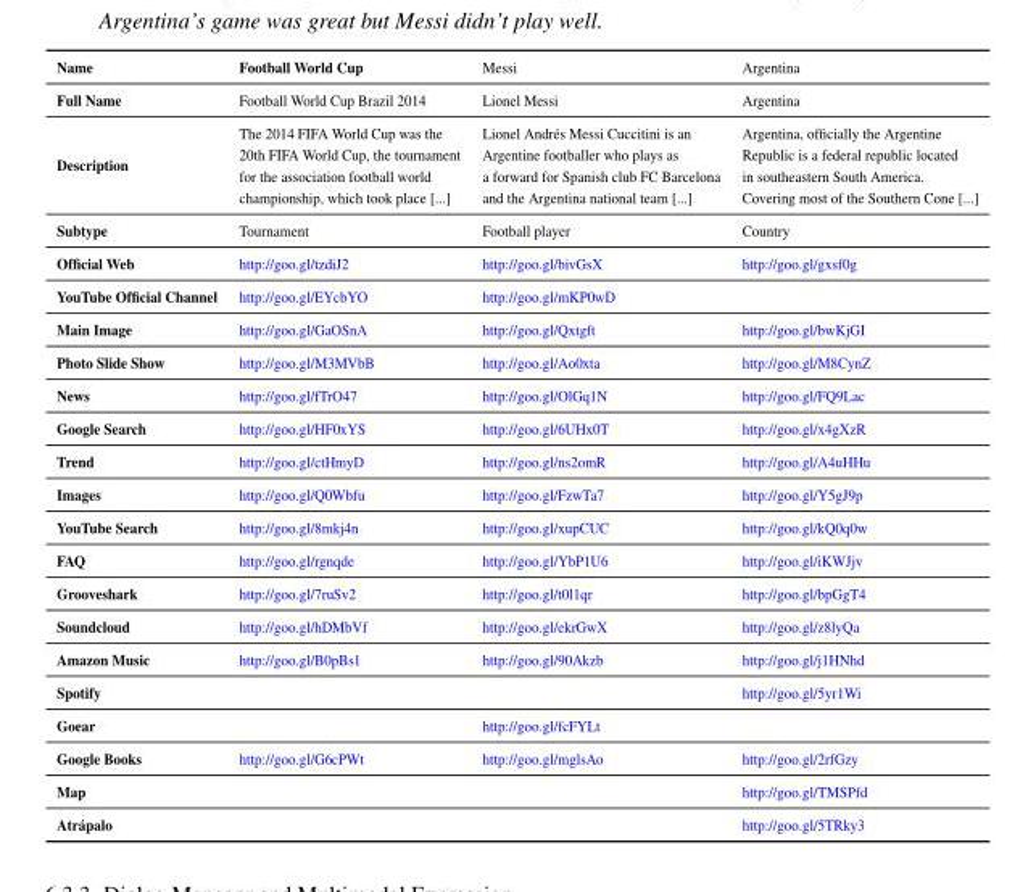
<table><tbody><tr><td>Name</td><td>Football World Cup</td><td>Messi</td><td>Argentina</td></tr><tr><td>Full Name</td><td>Football World Cup Brazil 2014</td><td>Lionel Messi</td><td>Argentina</td></tr><tr><td>Description</td><td>The 2014 FIFA World Cup was the 20th FIFA World Cup, the tournament for the association football world championship, which took place [...]</td><td>Lionel Andrés Messi Cuccitini is an Argentine footballer who plays as a forward for Spanish club FC Barcelona and the Argentina national team [...]</td><td>Argentina, officially the Argentine Republic is a federal republic located in southeastern South America. Covering most of the Southern Cone [...]</td></tr><tr><td>Subtype</td><td>Tournament</td><td>Football player</td><td>Country</td></tr><tr><td>Official Web</td><td>http://goo.gl/tzdiJ2</td><td>http://goo.gl/bivGsX</td><td>http://goo.gl/gxsf0g</td></tr><tr><td>YouTube Official Channel</td><td>http://goo.gl/EYcbYO</td><td>http://goo.gl/mKP0wD</td><td></td></tr><tr><td>Main Image</td><td>http://goo.gl/GaOSnA</td><td>http://goo.gl/Qxtgft</td><td>http://goo.gl/bwKjGI</td></tr><tr><td>Photo Slide Show</td><td>http://goo.gl/M3MVbB</td><td>http://goo.gl/Ao0xta</td><td>http://goo.gl/M8CynZ</td></tr><tr><td>News</td><td>http://goo.gl/fTrO47</td><td>http://goo.gl/OlGq1N</td><td>http://goo.gl/FQ9Lac</td></tr><tr><td>Google Search</td><td>http://goo.gl/HF0xYS</td><td>http://goo.gl/6UHx0T</td><td>http://goo.gl/x4gXzR</td></tr><tr><td>Trend</td><td>http://goo.gl/ctHmyD</td><td>http://goo.gl/ns2omR</td><td>http://goo.gl/A4uHHu</td></tr><tr><td>Images</td><td>http://goo.gl/Q0Wbfu</td><td>http://goo.gl/FzwTa7</td><td>http://goo.gl/Y5gJ9p</td></tr><tr><td>YouTube Search</td><td>http://goo.gl/8mkj4n</td><td>http://goo.gl/xupCUC</td><td>http://goo.gl/kQ0q0w</td></tr><tr><td>FAQ</td><td>http://goo.gl/rgnqde</td><td>http://goo.gl/YbP1U6</td><td>http://goo.gl/iKWJjv</td></tr><tr><td>Grooveshark</td><td>http://goo.gl/7ruSv2</td><td>http://goo.gl/t0l1qr</td><td>http://goo.gl/bpGgT4</td></tr><tr><td>Soundcloud</td><td>http://goo.gl/hDMbVf</td><td>http://goo.gl/ekrGwX</td><td>http://goo.gl/z8lyQa</td></tr><tr><td>Amazon Music</td><td>http://goo.gl/B0pBs1</td><td>http://goo.gl/90Akzb</td><td>http://goo.gl/j1HNhd</td></tr><tr><td>Spotify</td><td></td><td></td><td>http://goo.gl/5yr1Wi</td></tr><tr><td>Goear</td><td></td><td>http://goo.gl/fcFYLt</td><td></td></tr><tr><td>Google Books</td><td>http://goo.gl/G6cPWt</td><td>http://goo.gl/mglsAo</td><td>http://goo.gl/2rfGzy</td></tr><tr><td>Map</td><td></td><td></td><td>http://goo.gl/TMSPfd</td></tr><tr><td>Atrápalo</td><td></td><td></td><td>http://goo.gl/5TRky3</td></tr></tbody></table>